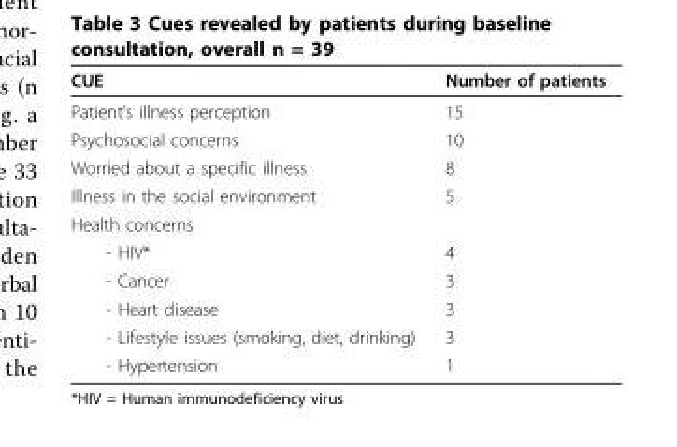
<table><thead><tr><td>CUE</td><td>Number of patients</td></tr></thead><tbody><tr><td>Patient’s illness perception</td><td>15</td></tr><tr><td>Psychosocial concerns</td><td>10</td></tr><tr><td>Worried about a specific illness</td><td>8</td></tr><tr><td>Illness in the social environment</td><td>5</td></tr><tr><td colspan="2">Health concerns</td></tr><tr><td>- HIV*</td><td>4</td></tr><tr><td>- Cancer</td><td>3</td></tr><tr><td>- Heart disease</td><td>3</td></tr><tr><td>- Lifestyle issues (smoking, diet, drinking)</td><td>3</td></tr><tr><td>- Hypertension</td><td>1</td></tr></tbody></table>